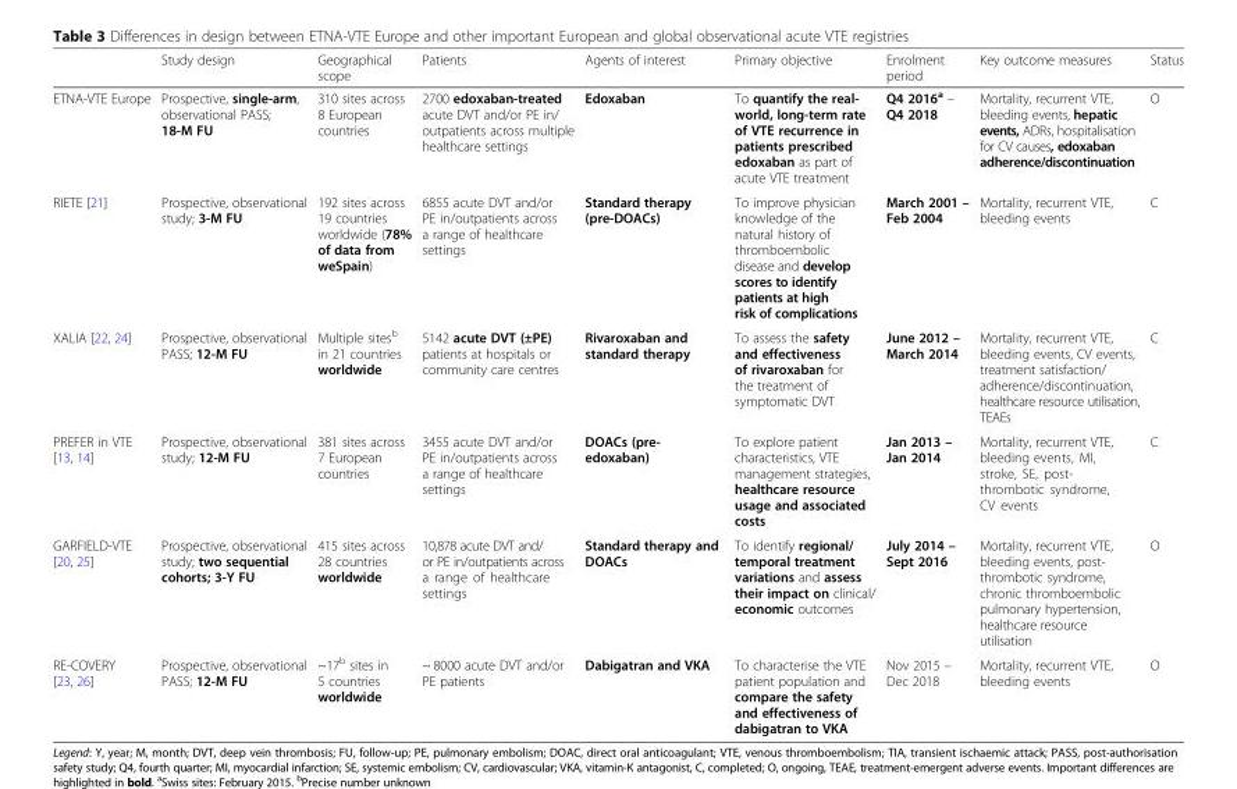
<table><thead><tr><td></td><td>Study design</td><td>Geographical scope</td><td>Patients</td><td>Agents of interest</td><td>Primary objective</td><td>Enrolment period</td><td>Key outcome measures</td><td>Status</td></tr></thead><tbody><tr><td>ETNA-VTE Europe</td><td>Prospective, single-arm, observational PASS; 18-M FU</td><td>310 sites across 8 European countries</td><td>2700 edoxaban-treated acute DVT and/or PE in/ outpatients across multiple healthcare settings</td><td>Edoxaban</td><td>To quantify the real- world, long-term rate of VTE recurrence in patients prescribed edoxaban as part of acute VTE treatment</td><td>Q4 2016<sup>a</sup> – Q4 2018</td><td>Mortality, recurrent VTE, bleeding events, hepatic events, ADRs, hospitalisation for CV causes, edoxaban adherence/discontinuation</td><td>O</td></tr><tr><td>RIETE [21]</td><td>Prospective, observational study; 3-M FU</td><td>192 sites across 19 countries worldwide (78% of data from weSpain)</td><td>6855 acute DVT and/or PE in/outpatients across a range of healthcare settings</td><td>Standard therapy (pre-DOACs)</td><td>To improve physician knowledge of the natural history of thromboembolic disease and develop scores to identify patients at high risk of complications</td><td>March 2001 – Feb 2004</td><td>Mortality, recurrent VTE, bleeding events</td><td>C</td></tr><tr><td>XALIA [22, 24]</td><td>Prospective, observational PASS; 12-M FU</td><td>Multiple sites<sup>b</sup> in 21 countries worldwide</td><td>5142 acute DVT (±PE) patients at hospitals or community care centres</td><td>Rivaroxaban and standard therapy</td><td>To assess the safety and effectiveness of rivaroxaban for the treatment of symptomatic DVT</td><td>June 2012 – March 2014</td><td>Mortality, recurrent VTE, bleeding events, CV events, treatment satisfaction/ adherence/discontinuation, healthcare resource utilisation, TEAEs</td><td>C</td></tr><tr><td>PREFER in VTE [13, 14]</td><td>Prospective, observational study; 12-M FU</td><td>381 sites across 7 European countries</td><td>3455 acute DVT and/or PE in/outpatients across a range of healthcare settings</td><td>DOACs (pre- edoxaban)</td><td>To explore patient characteristics, VTE management strategies, healthcare resource usage and associated costs</td><td>Jan 2013 – Jan 2014</td><td>Mortality, recurrent VTE, bleeding events, MI, stroke, SE, post- thrombotic syndrome, CV events</td><td>C</td></tr><tr><td>GARFIELD-VTE [20, 25]</td><td>Prospective, observational study; two sequential cohorts; 3-Y FU</td><td>415 sites across 28 countries worldwide</td><td>10,878 acute DVT and/ or PE in/outpatients across a range of healthcare settings</td><td>Standard therapy and DOACs</td><td>To identify regional/ temporal treatment variations and assess their impact on clinical/ economic outcomes</td><td>July 2014 – Sept 2016</td><td>Mortality, recurrent VTE, bleeding events, post- thrombotic syndrome, chronic thromboembolic pulmonary hypertension, healthcare resource utilisation</td><td>O</td></tr><tr><td>RE-COVERY [23, 26]</td><td>Prospective, observational PASS; 12-M FU</td><td>~17<sup>b</sup> sites in 5 countries worldwide</td><td>~ 8000 acute DVT and/or PE patients</td><td>Dabigatran and VKA</td><td>To characterise the VTE patient population and compare the safety and effectiveness of dabigatran to VKA</td><td>Nov 2015 – Dec 2018</td><td>Mortality, recurrent VTE, bleeding events</td><td>O</td></tr></tbody></table>